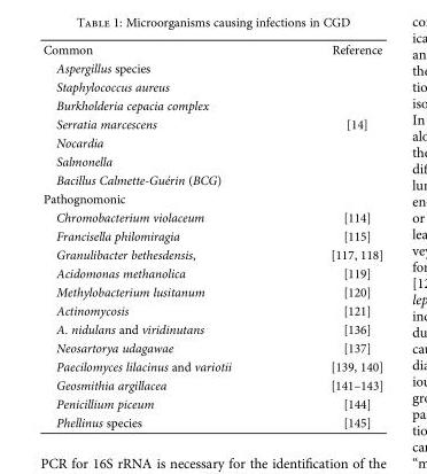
<table><tbody><tr><td>Common</td><td>Reference</td></tr><tr><td>Aspergillus species</td><td rowspan="7">[14]</td></tr><tr><td>Staphylococcus aureus</td></tr><tr><td>Burkholderia cepacia complex</td></tr><tr><td>Serratia marcescens</td></tr><tr><td>Nocardia</td></tr><tr><td>Salmonella</td></tr><tr><td>Bacillus Calmette-Guérin (BCG)</td></tr><tr><td colspan="2">Pathognomonic</td></tr><tr><td>Chromobacterium violaceum</td><td>[114]</td></tr><tr><td>Francisella philomiragia</td><td>[115]</td></tr><tr><td>Granulibacter bethesdensis,</td><td>[117, 118]</td></tr><tr><td>Acidomonas methanolica</td><td>[119]</td></tr><tr><td>Methylobacterium lusitanum</td><td>[120]</td></tr><tr><td>Actinomycosis</td><td>[121]</td></tr><tr><td>A. nidulans and viridinutans</td><td>[136]</td></tr><tr><td>Neosartorya udagawae</td><td>[137]</td></tr><tr><td>Paecilomyces lilacinus and variotii</td><td>[139, 140]</td></tr><tr><td>Geosmithia argillacea</td><td>[141–143]</td></tr><tr><td>Penicillium piceum</td><td>[144]</td></tr><tr><td>Phellinus species</td><td>[145]</td></tr></tbody></table>